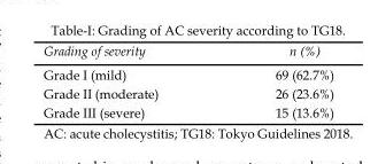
<table><thead><tr><td>Grading of severity</td><td>n (%)</td></tr></thead><tbody><tr><td>Grade I (mild)</td><td>69 (62.7%)</td></tr><tr><td>Grade II (moderate)</td><td>26 (23.6%)</td></tr><tr><td>Grade III (severe)</td><td>15 (13.6%)</td></tr></tbody></table>